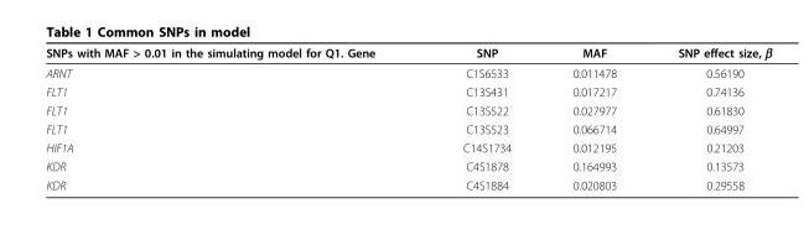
<table><thead><tr><td>SNPs with MAF &gt; 0.01 in the simulating model for Q1. Gene</td><td>SNP</td><td>MAF</td><td>SNP effect size,</td></tr></thead><tbody><tr><td>ARNT</td><td>C1S6533</td><td>0.011478</td><td>0.56190</td></tr><tr><td>FLT1</td><td>C13S431</td><td>0.017217</td><td>0.74136</td></tr><tr><td>FLT1</td><td>C13S522</td><td>0.027977</td><td>0.61830</td></tr><tr><td>FLT1</td><td>C13S523</td><td>0.066714</td><td>0.64997</td></tr><tr><td>HIF1A</td><td>C14S1734</td><td>0.012195</td><td>0.21203</td></tr><tr><td>KDR</td><td>C4S1878</td><td>0.164993</td><td>0.13573</td></tr><tr><td>KDR</td><td>C4S1884</td><td>0.020803</td><td>0.29558</td></tr></tbody></table>